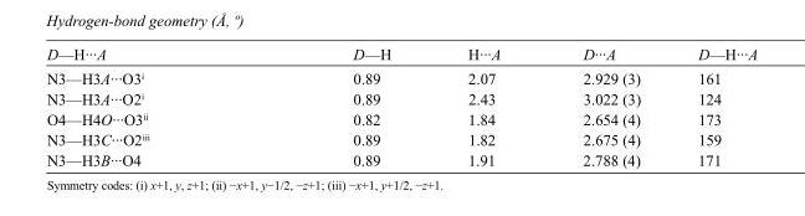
<table><tbody><tr><td>D—H···A</td><td>D—H</td><td>H···A</td><td>D···A</td><td>D—H···A</td></tr><tr><td>N3—H3A···O3<sup>i</sup></td><td>0.89</td><td>2.07</td><td>2.929 (3)</td><td>161</td></tr><tr><td>N3—H3A···O2<sup>i</sup></td><td>0.89</td><td>2.43</td><td>3.022 (3)</td><td>124</td></tr><tr><td>O4—H4O···O3<sup>ii</sup></td><td>0.82</td><td>1.84</td><td>2.654 (4)</td><td>173</td></tr><tr><td>N3—H3C···O2<sup>iii</sup></td><td>0.89</td><td>1.82</td><td>2.675 (4)</td><td>159</td></tr><tr><td>N3—H3B···O4</td><td>0.89</td><td>1.91</td><td>2.788 (4)</td><td>171</td></tr></tbody></table>